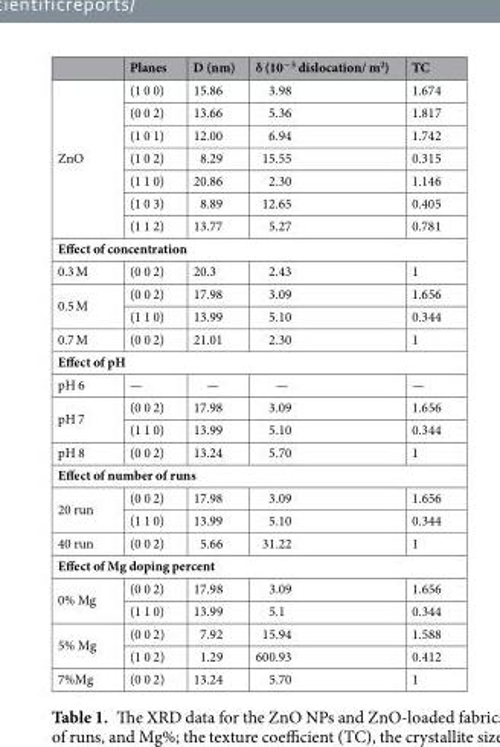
<table><thead><tr><td></td><td>Planes</td><td>D (nm)</td><td>δ (10<sup>−3</sup> dislocation/ m<sup>2</sup>)</td><td>TC</td></tr></thead><tbody><tr><td rowspan="7">ZnO</td><td>(1 0 0)</td><td>15.86</td><td>3.98</td><td>1.674</td></tr><tr><td>(0 0 2)</td><td>13.66</td><td>5.36</td><td>1.817</td></tr><tr><td>(1 0 1)</td><td>12.00</td><td>6.94</td><td>1.742</td></tr><tr><td>(1 0 2)</td><td>8.29</td><td>15.55</td><td>0.315</td></tr><tr><td>(1 1 0)</td><td>20.86</td><td>2.30</td><td>1.146</td></tr><tr><td>(1 0 3)</td><td>8.89</td><td>12.65</td><td>0.405</td></tr><tr><td>(1 1 2)</td><td>13.77</td><td>5.27</td><td>0.781</td></tr><tr><td colspan="5">Effect of concentration</td></tr><tr><td>0.3 M</td><td>(0 0 2)</td><td>20.3</td><td>2.43</td><td>1</td></tr><tr><td rowspan="2">0.5 M</td><td>(0 0 2)</td><td>17.98</td><td>3.09</td><td>1.656</td></tr><tr><td>(1 1 0)</td><td>13.99</td><td>5.10</td><td>0.344</td></tr><tr><td>0.7 M</td><td>(0 0 2)</td><td>21.01</td><td>2.30</td><td>1</td></tr><tr><td colspan="5">Effect of pH</td></tr><tr><td>pH 6</td><td>—</td><td>—</td><td>—</td><td>—</td></tr><tr><td rowspan="2">pH 7</td><td>(0 0 2)</td><td>17.98</td><td>3.09</td><td>1.656</td></tr><tr><td>(1 1 0)</td><td>13.99</td><td>5.10</td><td>0.344</td></tr><tr><td>pH 8</td><td>(0 0 2)</td><td>13.24</td><td>5.70</td><td>1</td></tr><tr><td colspan="5">Effect of number of runs</td></tr><tr><td rowspan="2">20 run</td><td>(0 0 2)</td><td>17.98</td><td>3.09</td><td>1.656</td></tr><tr><td>(1 1 0)</td><td>13.99</td><td>5.10</td><td>0.344</td></tr><tr><td>40 run</td><td>(0 0 2)</td><td>5.66</td><td>31.22</td><td>1</td></tr><tr><td colspan="5">Effect of Mg doping percent</td></tr><tr><td rowspan="2">0% Mg</td><td>(0 0 2)</td><td>17.98</td><td>3.09</td><td>1.656</td></tr><tr><td>(1 1 0)</td><td>13.99</td><td>5.1</td><td>0.344</td></tr><tr><td rowspan="2">5% Mg</td><td>(0 0 2)</td><td>7.92</td><td>15.94</td><td>1.588</td></tr><tr><td>(1 0 2)</td><td>1.29</td><td>600.93</td><td>0.412</td></tr><tr><td>7%Mg</td><td>(0 0 2)</td><td>13.24</td><td>5.70</td><td>1</td></tr></tbody></table>